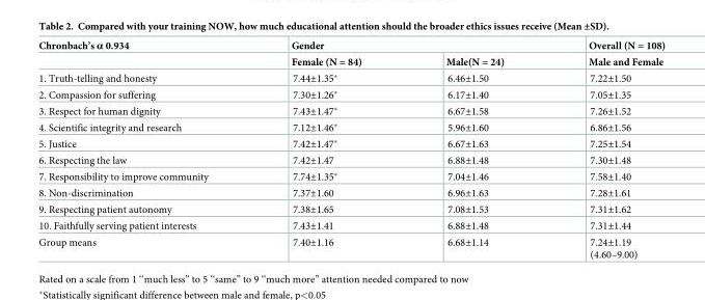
<table><thead><tr><td rowspan="2">Chronbach’s α 0.934</td><td colspan="2">Gender</td><td rowspan="2">Overall (N = 108) Male and Female</td></tr><tr><td>Female (N = 84)</td><td>Male(N = 24)</td></tr></thead><tbody><tr><td>1. Truth-telling and honesty</td><td>7.44±1.35*</td><td>6.46±1.50</td><td>7.22±1.50</td></tr><tr><td>2. Compassion for suffering</td><td>7.30±1.26*</td><td>6.17±1.40</td><td>7.05±1.35</td></tr><tr><td>3. Respect for human dignity</td><td>7.43±1.47*</td><td>6.67±1.58</td><td>7.26±1.52</td></tr><tr><td>4. Scientific integrity and research</td><td>7.12±1.46*</td><td>5.96±1.60</td><td>6.86±1.56</td></tr><tr><td>5. Justice</td><td>7.42±1.47*</td><td>6.67±1.63</td><td>7.25±1.54</td></tr><tr><td>6. Respecting the law</td><td>7.42±1.47</td><td>6.88±1.48</td><td>7.30±1.48</td></tr><tr><td>7. Responsibility to improve community</td><td>7.74±1.35*</td><td>7.04±1.46</td><td>7.58±1.40</td></tr><tr><td>8. Non-discrimination</td><td>7.37±1.60</td><td>6.96±1.63</td><td>7.28±1.61</td></tr><tr><td>9. Respecting patient autonomy</td><td>7.38±1.65</td><td>7.08±1.53</td><td>7.31±1.62</td></tr><tr><td>10. Faithfully serving patient interests</td><td>7.43±1.41</td><td>6.88±1.48</td><td>7.31±1.44</td></tr><tr><td>Group means</td><td>7.40±1.16</td><td>6.68±1.14</td><td>7.24±1.19 (4.60–9.00)</td></tr></tbody></table>